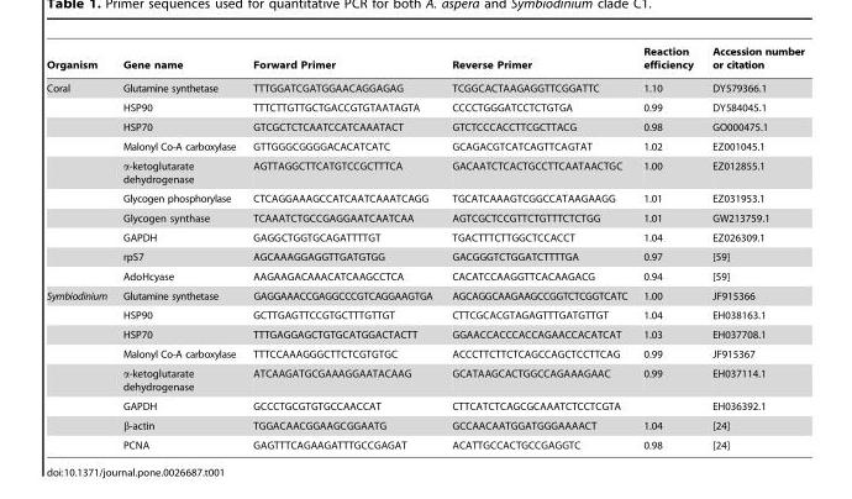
<table><thead><tr><td>Organism</td><td>Gene name</td><td>Forward Primer</td><td>Reverse Primer</td><td>Reaction efficiency</td><td>Accession number or citation</td></tr></thead><tbody><tr><td rowspan="10">Coral</td><td>Glutamine synthetase</td><td>TTTGGATCGATGGAACAGGAGAG</td><td>TCGGCACTAAGAGGTTCGGATTC</td><td>1.10</td><td>DY579366.1</td></tr><tr><td>HSP90</td><td>TTTCTTGTTGCTGACCGTGTAATAGTA</td><td>CCCCTGGGATCCTCTGTGA</td><td>0.99</td><td>DY584045.1</td></tr><tr><td>HSP70</td><td>GTCGCTCTCAATCCATCAAATACT</td><td>GTCTCCCACCTTCGCTTACG</td><td>0.98</td><td>GO000475.1</td></tr><tr><td>Malonyl Co-A carboxylase</td><td>GTTGGGCGGGGACACATCATC</td><td>GCAGACGTCATCAGTTCAGTAT</td><td>1.02</td><td>EZ001045.1</td></tr><tr><td>α-ketoglutarate dehydrogenase</td><td>AGTTAGGCTTCATGTCCGCTTTCA</td><td>GACAATCTCACTGCCTTCAATAACTGC</td><td>1.00</td><td>EZ012855.1</td></tr><tr><td>Glycogen phosphorylase</td><td>CTCAGGAAAGCCATCAATCAAATCAGG</td><td>TGCATCAAAGTCGGCCATAAGAAGG</td><td>1.01</td><td>EZ031953.1</td></tr><tr><td>Glycogen synthase</td><td>TCAAATCTGCCGAGGAATCAATCAA</td><td>AGTCGCTCCGTTCTGTTTCTCTGG</td><td>1.01</td><td>GW213759.1</td></tr><tr><td>GAPDH</td><td>GAGGCTGGTGCAGATTTTGT</td><td>TGACTTTCTTGGCTCCACCT</td><td>1.04</td><td>EZ026309.1</td></tr><tr><td>rpS7</td><td>AGCAAAGGAGGTTGATGTGG</td><td>GACGGGTCTGGATCTTTTGA</td><td>0.97</td><td>[59]</td></tr><tr><td>AdoHcyase</td><td>AAGAAGACAAACATCAAGCCTCA</td><td>CACATCCAAGGTTCACAAGACG</td><td>0.94</td><td>[59]</td></tr><tr><td rowspan="8">Symbiodinium</td><td>Glutamine synthetase</td><td>GAGGAAACCGAGGCCCGTCAGGAAGTGA</td><td>AGCAGGCAAGAAGCCGGTCTCGGTCATC</td><td>1.00</td><td>JF915366</td></tr><tr><td>HSP90</td><td>GCTTGAGTTCCGTGCTTTGTTGT</td><td>CTTCGCACGTAGAGTTTGATGTTGT</td><td>1.04</td><td>EH038163.1</td></tr><tr><td>HSP70</td><td>TTTGAGGAGCTGTGCATGGACTACTT</td><td>GGAACCACCCACCAGAACCACATCAT</td><td>1.03</td><td>EH037708.1</td></tr><tr><td>Malonyl Co-A carboxylase</td><td>TTTCCAAAGGGCTTCTCGTGTGC</td><td>ACCCTTCTTCTCAGCCAGCTCCTTCAG</td><td>0.99</td><td>JF915367</td></tr><tr><td>α-ketoglutarate dehydrogenase</td><td>ATCAAGATGCGAAAGGAATACAAG</td><td>GCATAAGCACTGGCCAGAAAGAAC</td><td>0.99</td><td>EH037114.1</td></tr><tr><td>GAPDH</td><td>GCCCTGCGTGTGCCAACCAT</td><td>CTTCATCTCAGCGCAAATCTCCTCGTA</td><td></td><td>EH036392.1</td></tr><tr><td>β-actin</td><td>TGGACAACGGAAGCGGAATG</td><td>GCCAACAATGGATGGGAAAACT</td><td>1.04</td><td>[24]</td></tr><tr><td>PCNA</td><td>GAGTTTCAGAAGATTTGCCGAGAT</td><td>ACATTGCCACTGCCGAGGTC</td><td>0.98</td><td>[24]</td></tr></tbody></table>